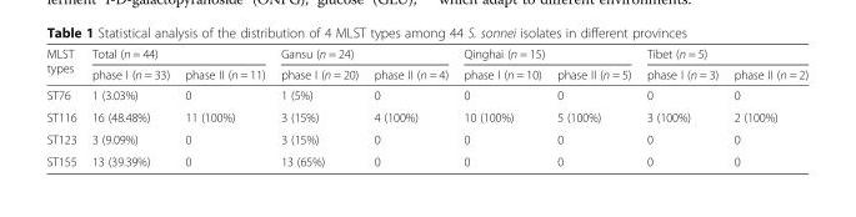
<table><thead><tr><td rowspan="2">MLST types</td><td colspan="2">Total (n = 44)</td><td colspan="2">Gansu (n = 24)</td><td colspan="2">Qinghai (n = 15)</td><td colspan="2">Tibet (n = 5)</td></tr><tr><td>phase I (n = 33)</td><td>phase II (n = 11)</td><td>phase I (n = 20)</td><td>phase II (n = 4)</td><td>phase I (n = 10)</td><td>phase II (n = 5)</td><td>phase I (n = 3)</td><td>phase II (n = 2)</td></tr></thead><tbody><tr><td>ST76</td><td>1 (3.03%)</td><td>0</td><td>1 (5%)</td><td>0</td><td>0</td><td>0</td><td>0</td><td>0</td></tr><tr><td>ST116</td><td>16 (48.48%)</td><td>11 (100%)</td><td>3 (15%)</td><td>4 (100%)</td><td>10 (100%)</td><td>5 (100%)</td><td>3 (100%)</td><td>2 (100%)</td></tr><tr><td>ST123</td><td>3 (9.09%)</td><td>0</td><td>3 (15%)</td><td>0</td><td>0</td><td>0</td><td>0</td><td>0</td></tr><tr><td>ST155</td><td>13 (39.39%)</td><td>0</td><td>13 (65%)</td><td>0</td><td>0</td><td>0</td><td>0</td><td>0</td></tr></tbody></table>